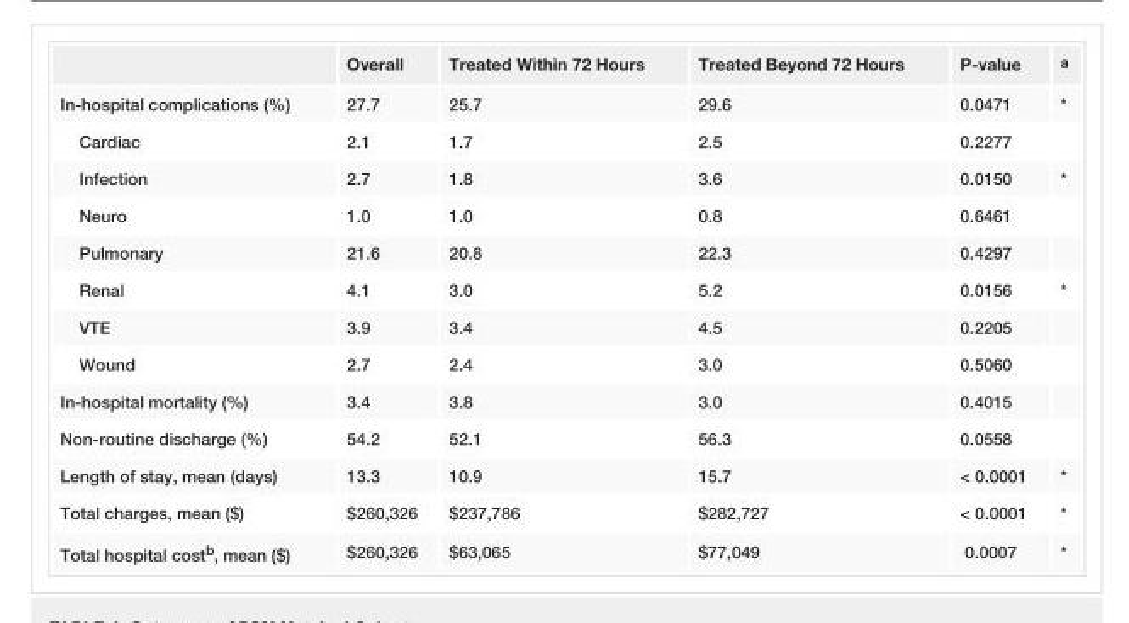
<table><thead><tr><td></td><td>Overall</td><td>Treated Within 72 Hours</td><td>Treated Beyond 72 Hours</td><td>P-value</td><td><sup>a</sup></td></tr></thead><tbody><tr><td>In-hospital complications (%)</td><td>27.7</td><td>25.7</td><td>29.6</td><td>0.0471</td><td>*</td></tr><tr><td>Cardiac</td><td>2.1</td><td>1.7</td><td>2.5</td><td>0.2277</td><td></td></tr><tr><td>Infection</td><td>2.7</td><td>1.8</td><td>3.6</td><td>0.0150</td><td>*</td></tr><tr><td>Neuro</td><td>1.0</td><td>1.0</td><td>0.8</td><td>0.6461</td><td></td></tr><tr><td>Pulmonary</td><td>21.6</td><td>20.8</td><td>22.3</td><td>0.4297</td><td></td></tr><tr><td>Renal</td><td>4.1</td><td>3.0</td><td>5.2</td><td>0.0156</td><td>*</td></tr><tr><td>VTE</td><td>3.9</td><td>3.4</td><td>4.5</td><td>0.2205</td><td></td></tr><tr><td>Wound</td><td>2.7</td><td>2.4</td><td>3.0</td><td>0.5060</td><td></td></tr><tr><td>In-hospital mortality (%)</td><td>3.4</td><td>3.8</td><td>3.0</td><td>0.4015</td><td></td></tr><tr><td>Non-routine discharge (%)</td><td>54.2</td><td>52.1</td><td>56.3</td><td>0.0558</td><td></td></tr><tr><td>Length of stay, mean (days)</td><td>13.3</td><td>10.9</td><td>15.7</td><td>&lt; 0.0001</td><td>*</td></tr><tr><td>Total charges, mean ($)</td><td>$260,326</td><td>$237,786</td><td>$282,727</td><td>&lt; 0.0001</td><td>*</td></tr><tr><td>Total hospital cost<sup>b</sup>, mean ($)</td><td>$260,326</td><td>$63,065</td><td>$77,049</td><td>0.0007</td><td>*</td></tr></tbody></table>